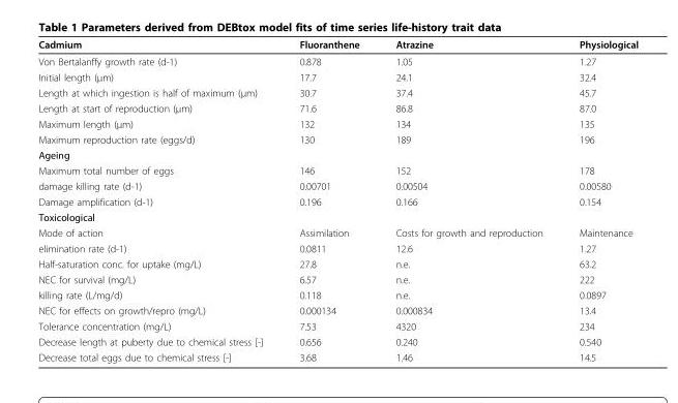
<table><thead><tr><td>Cadmium</td><td>Fluoranthene</td><td>Atrazine</td><td>Physiological</td></tr></thead><tbody><tr><td>Von Bertalanffy growth rate (d-1)</td><td>0.878</td><td>1.05</td><td>1.27</td></tr><tr><td>Initial length (μm)</td><td>17.7</td><td>24.1</td><td>32.4</td></tr><tr><td>Length at which ingestion is half of maximum (μm)</td><td>30.7</td><td>37.4</td><td>45.7</td></tr><tr><td>Length at start of reproduction (μm)</td><td>71.6</td><td>86.8</td><td>87.0</td></tr><tr><td>Maximum length (μm)</td><td>132</td><td>134</td><td>135</td></tr><tr><td>Maximum reproduction rate (eggs/d)</td><td>130</td><td>189</td><td>196</td></tr><tr><td colspan="4">Ageing</td></tr><tr><td>Maximum total number of eggs</td><td>146</td><td>152</td><td>178</td></tr><tr><td>damage killing rate (d-1)</td><td>0.00701</td><td>0.00504</td><td>0.00580</td></tr><tr><td>Damage amplification (d-1)</td><td>0.196</td><td>0.166</td><td>0.154</td></tr><tr><td colspan="4">Toxicological</td></tr><tr><td>Mode of action</td><td>Assimilation</td><td>Costs for growth and reproduction</td><td>Maintenance</td></tr><tr><td>elimination rate (d-1)</td><td>0.0811</td><td>12.6</td><td>1.27</td></tr><tr><td>Half-saturation conc. for uptake (mg/L)</td><td>27.8</td><td>n.e.</td><td>63.2</td></tr><tr><td>NEC for survival (mg/L)</td><td>6.57</td><td>n.e.</td><td>222</td></tr><tr><td>killing rate (L/mg/d)</td><td>0.118</td><td>n.e.</td><td>0.0897</td></tr><tr><td>NEC for effects on growth/repro (mg/L)</td><td>0.000134</td><td>0.000834</td><td>13.4</td></tr><tr><td>Tolerance concentration (mg/L)</td><td>7.53</td><td>4320</td><td>234</td></tr><tr><td>Decrease length at puberty due to chemical stress [-]</td><td>0.656</td><td>0.240</td><td>0.540</td></tr><tr><td>Decrease total eggs due to chemical stress [-]</td><td>3.68</td><td>1.46</td><td>14.5</td></tr></tbody></table>